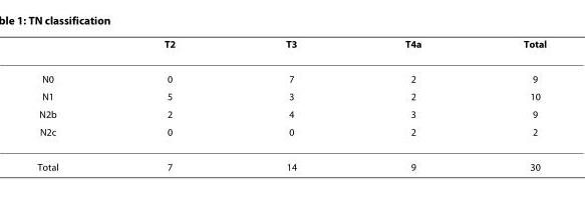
<table><thead><tr><td></td><td>T2</td><td>T3</td><td>T4a</td><td>Total</td></tr></thead><tbody><tr><td>N0</td><td>0</td><td>7</td><td>2</td><td>9</td></tr><tr><td>N1</td><td>5</td><td>3</td><td>2</td><td>10</td></tr><tr><td>N2b</td><td>2</td><td>4</td><td>3</td><td>9</td></tr><tr><td>N2c</td><td>0</td><td>0</td><td>2</td><td>2</td></tr><tr><td>Total</td><td>7</td><td>14</td><td>9</td><td>30</td></tr></tbody></table>